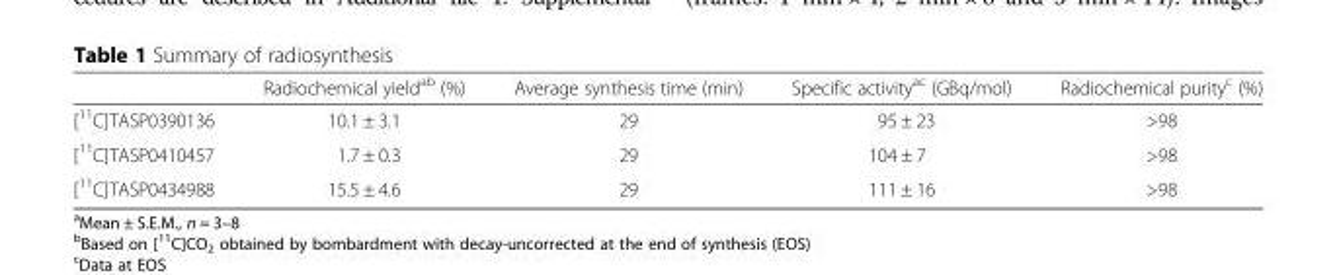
<table><thead><tr><td></td><td>Radiochemical yield<sup>ab</sup> (%)</td><td>Average synthesis time (min)</td><td>Specific activity<sup>ac</sup> (GBq/mol)</td><td>Radiochemical purity<sup>c</sup> (%)</td></tr></thead><tbody><tr><td>[<sup>11</sup>C]TASP0390136</td><td>10.1 ± 3.1</td><td>29</td><td>95 ± 23</td><td>&gt;98</td></tr><tr><td>[<sup>11</sup>C]TASP0410457</td><td>1.7 ± 0.3</td><td>29</td><td>104 ± 7</td><td>&gt;98</td></tr><tr><td>[<sup>11</sup>C]TASP0434988</td><td>15.5 ± 4.6</td><td>29</td><td>111 ± 16</td><td>&gt;98</td></tr></tbody></table>